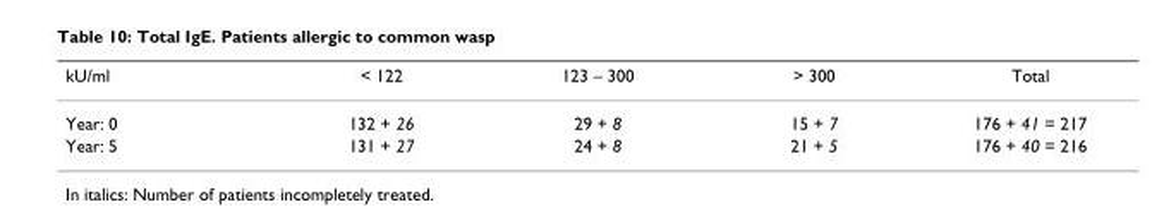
<table><thead><tr><td>kU/ml</td><td>&lt; 122</td><td>123 – 300</td><td>&gt; 300</td><td>Total</td></tr></thead><tbody><tr><td>Year: 0</td><td>132 + 26</td><td>29 + 8</td><td>15 + 7</td><td>176 + 41 = 217</td></tr><tr><td>Year: 5</td><td>131 + 27</td><td>24 + 8</td><td>21 + 5</td><td>176 + 40 = 216</td></tr></tbody></table>